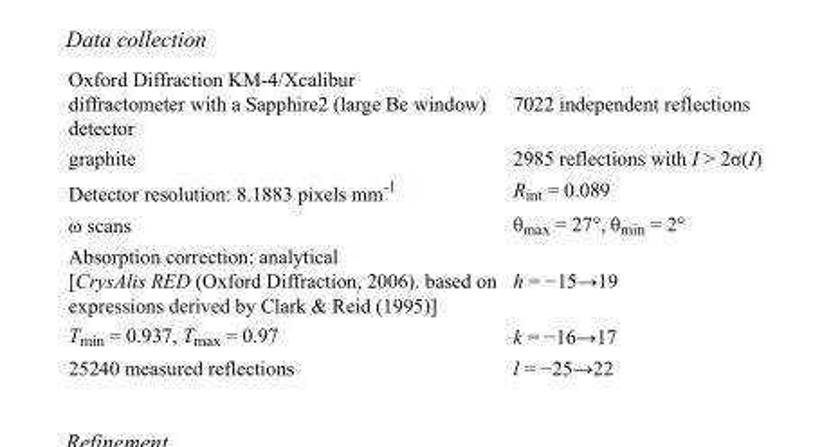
<table><tbody><tr><td>Oxford Diffraction KM-4/Xcalibur diffractometer with a Sapphire2 (large Be window) detector</td><td>7022 independent reflections</td></tr><tr><td>graphite</td><td>2985 reflections with I &gt; 2σ(I)</td></tr><tr><td>Detector resolution: 8.1883 pixels mm<sup>-1</sup></td><td>R<sub>int</sub> = 0.089</td></tr><tr><td>ω scans</td><td>θ<sub>max</sub> = 27°, θ<sub>min</sub> = 2°</td></tr><tr><td>Absorption correction: analytical [CrysAlis RED (Oxford Diffraction, 2006). based on expressions derived by Clark &amp; Reid (1995)]</td><td>h = −15→19</td></tr><tr><td>T<sub>min</sub> = 0.937, T<sub>max</sub> = 0.97</td><td>k = −16→17</td></tr><tr><td>25240 measured reflections</td><td>l = −25→22</td></tr></tbody></table>